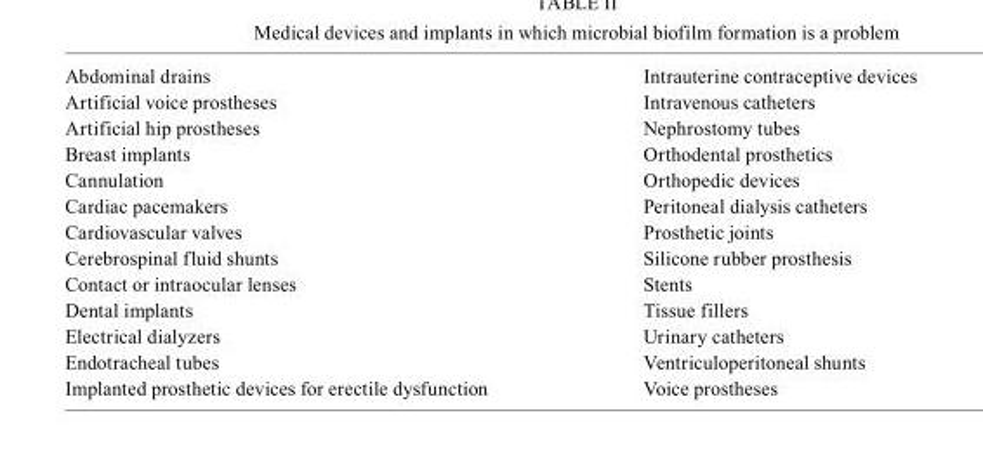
<table><tbody><tr><td>Abdominal drains</td><td>Intrauterine contraceptive devices</td></tr><tr><td>Artificial voice prostheses</td><td>Intravenous catheters</td></tr><tr><td>Artificial hip prostheses</td><td>Nephrostomy tubes</td></tr><tr><td>Breast implants</td><td>Orthodental prosthetics</td></tr><tr><td>Cannulation</td><td>Orthopedic devices</td></tr><tr><td>Cardiac pacemakers</td><td>Peritoneal dialysis catheters</td></tr><tr><td>Cardiovascular valves</td><td>Prosthetic joints</td></tr><tr><td>Cerebrospinal fluid shunts</td><td>Silicone rubber prosthesis</td></tr><tr><td>Contact or intraocular lenses</td><td>Stents</td></tr><tr><td>Dental implants</td><td>Tissue fillers</td></tr><tr><td>Electrical dialyzers</td><td>Urinary catheters</td></tr><tr><td>Endotracheal tubes</td><td>Ventriculoperitoneal shunts</td></tr><tr><td>Implanted prosthetic devices for erectile dysfunction</td><td>Voice prostheses</td></tr></tbody></table>